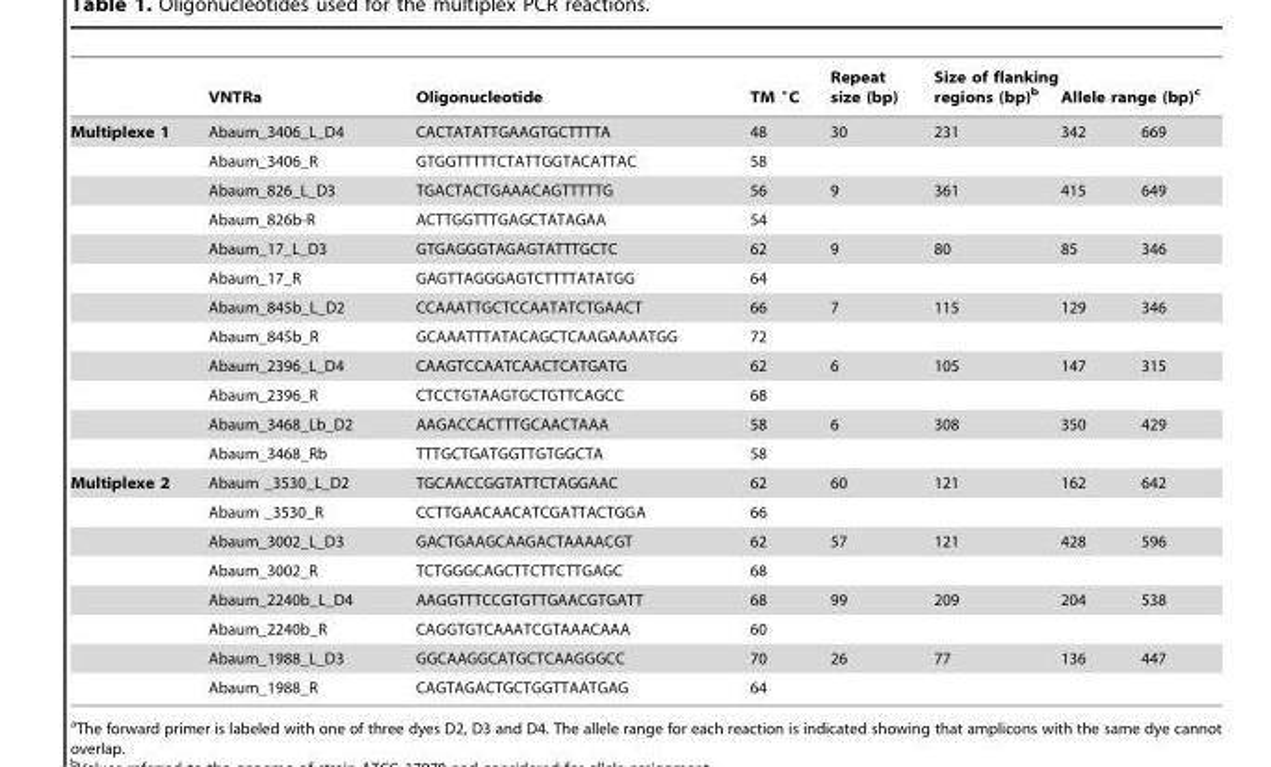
<table><thead><tr><td rowspan="2">Multiplexe 1</td><td rowspan="2">VNTRa Abaum_3406_L_D4</td><td rowspan="2">Oligonucleotide CACTATATTGAAGTGCTTTTA</td><td rowspan="2">TM °C 48</td><td rowspan="2">Repeat size (bp) 30</td><td rowspan="2">Size of flanking regions (bp)<sup>b</sup> 231</td><td colspan="2">Allele range (bp)<sup>c</sup></td></tr><tr><td>342</td><td>669</td></tr></thead><tbody><tr><td></td><td>Abaum_3406_R</td><td>GTGGTTTTTCTATTGGTACATTAC</td><td>58</td><td></td><td></td><td></td><td></td></tr><tr><td></td><td>Abaum_826_L_D3</td><td>TGACTACTGAAACAGTTTTTG</td><td>56</td><td>9</td><td>361</td><td>415</td><td>649</td></tr><tr><td></td><td>Abaum_826b-R</td><td>ACTTGGTTTGAGCTATAGAA</td><td>54</td><td></td><td></td><td></td><td></td></tr><tr><td></td><td>Abaum_17_L_D3</td><td>GTGAGGGTAGAGTATTTGCTC</td><td>62</td><td>9</td><td>80</td><td>85</td><td>346</td></tr><tr><td></td><td>Abaum_17_R</td><td>GAGTTAGGGAGTCTTTTATATGG</td><td>64</td><td></td><td></td><td></td><td></td></tr><tr><td></td><td>Abaum_845b_L_D2</td><td>CCAAATTGCTCCAATATCTGAACT</td><td>66</td><td>7</td><td>115</td><td>129</td><td>346</td></tr><tr><td></td><td>Abaum_845b_R</td><td>GCAAATTTATACAGCTCAAGAAAATGG</td><td>72</td><td></td><td></td><td></td><td></td></tr><tr><td></td><td>Abaum_2396_L_D4</td><td>CAAGTCCAATCAACTCATGATG</td><td>62</td><td>6</td><td>105</td><td>147</td><td>315</td></tr><tr><td></td><td>Abaum_2396_R</td><td>CTCCTGTAAGTGCTGTTCAGCC</td><td>68</td><td></td><td></td><td></td><td></td></tr><tr><td></td><td>Abaum_3468_Lb_D2</td><td>AAGACCACTTTGCAACTAAA</td><td>58</td><td>6</td><td>308</td><td>350</td><td>429</td></tr><tr><td></td><td>Abaum_3468_Rb</td><td>TTTGCTGATGGTTGTGGCTA</td><td>58</td><td></td><td></td><td></td><td></td></tr><tr><td rowspan="8">Multiplexe 2</td><td>Abaum _3530_L_D2</td><td>TGCAACCGGTATTCTAGGAAC</td><td>62</td><td>60</td><td>121</td><td>162</td><td>642</td></tr><tr><td>Abaum _3530_R</td><td>CCTTGAACAACATCGATTACTGGA</td><td>66</td><td></td><td></td><td></td><td></td></tr><tr><td>Abaum_3002_L_D3</td><td>GACTGAAGCAAGACTAAAACGT</td><td>62</td><td>57</td><td>121</td><td>428</td><td>596</td></tr><tr><td>Abaum_3002_R</td><td>TCTGGGCAGCTTCTTCTTGAGC</td><td>68</td><td></td><td></td><td></td><td></td></tr><tr><td>Abaum_2240b_L_D4</td><td>AAGGTTTCCGTGTTGAACGTGATT</td><td>68</td><td>99</td><td>209</td><td>204</td><td>538</td></tr><tr><td>Abaum_2240b_R</td><td>CAGGTGTCAAATCGTAAACAAA</td><td>60</td><td></td><td></td><td></td><td></td></tr><tr><td>Abaum_1988_L_D3</td><td>GGCAAGGCATGCTCAAGGGCC</td><td>70</td><td>26</td><td>77</td><td>136</td><td>447</td></tr><tr><td>Abaum_1988_R</td><td>CAGTAGACTGCTGGTTAATGAG</td><td>64</td><td></td><td></td><td></td><td></td></tr></tbody></table>